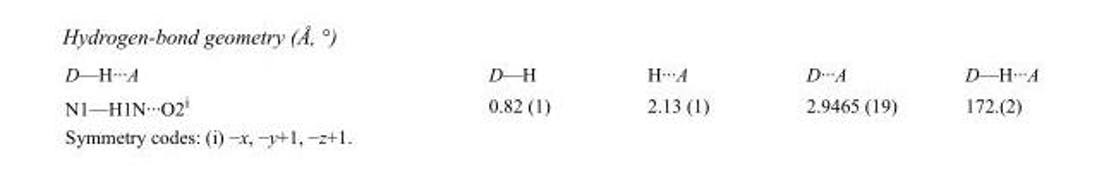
<table><tbody><tr><td>D—H···A</td><td>D—H</td><td>H···A</td><td>D···A</td><td>D—H···A</td></tr><tr><td>N1—H1N···O2<sup>i</sup></td><td>0.82 (1)</td><td>2.13 (1)</td><td>2.9465 (19)</td><td>172.(2)</td></tr></tbody></table>